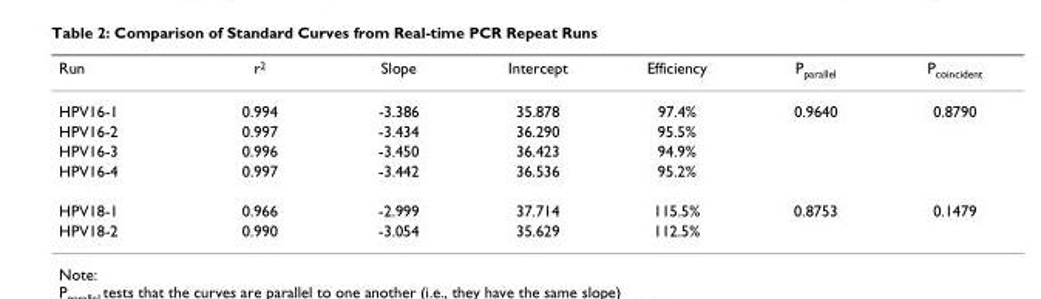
<table><thead><tr><td>Run</td><td>r<sup>2</sup></td><td>Slope</td><td>Intercept</td><td>Efficiency</td><td>P<sub>parallel</sub></td><td>P<sub>coincident</sub></td></tr></thead><tbody><tr><td>HPV16-1</td><td>0.994</td><td>-3.386</td><td>35.878</td><td>97.4%</td><td>0.9640</td><td>0.8790</td></tr><tr><td>HPV16-2</td><td>0.997</td><td>-3.434</td><td>36.290</td><td>95.5%</td><td></td><td></td></tr><tr><td>HPV16-3</td><td>0.996</td><td>-3.450</td><td>36.423</td><td>94.9%</td><td></td><td></td></tr><tr><td>HPV16-4</td><td>0.997</td><td>-3.442</td><td>36.536</td><td>95.2%</td><td></td><td></td></tr><tr><td>HPV18-1</td><td>0.966</td><td>-2.999</td><td>37.714</td><td>115.5%</td><td>0.8753</td><td>0.1479</td></tr><tr><td>HPV18-2</td><td>0.990</td><td>-3.054</td><td>35.629</td><td>112.5%</td><td></td><td></td></tr></tbody></table>